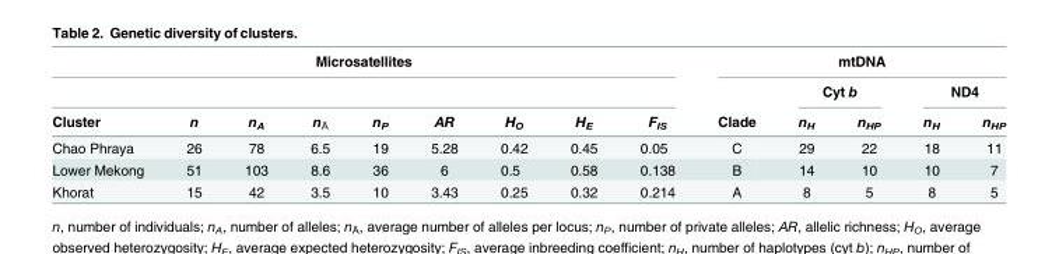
<table><thead><tr><td colspan="9">Microsatellites</td><td colspan="5">mtDNA</td></tr><tr><td rowspan="2">Cluster</td><td rowspan="2">n</td><td rowspan="2">n<sub>A</sub></td><td rowspan="2">n<sub>Ā</sub></td><td rowspan="2">n<sub>P</sub></td><td rowspan="2">AR</td><td rowspan="2">H<sub>O</sub></td><td rowspan="2">H<sub>E</sub></td><td rowspan="2">F<sub>IS</sub></td><td rowspan="2">Clade</td><td colspan="2">Cyt b</td><td colspan="2">ND4</td></tr><tr><td>n<sub>H</sub></td><td>n<sub>HP</sub></td><td>n<sub>H</sub></td><td>n<sub>HP</sub></td></tr></thead><tbody><tr><td>Chao Phraya</td><td>26</td><td>78</td><td>6.5</td><td>19</td><td>5.28</td><td>0.42</td><td>0.45</td><td>0.05</td><td>C</td><td>29</td><td>22</td><td>18</td><td>11</td></tr><tr><td>Lower Mekong</td><td>51</td><td>103</td><td>8.6</td><td>36</td><td>6</td><td>0.5</td><td>0.58</td><td>0.138</td><td>B</td><td>14</td><td>10</td><td>10</td><td>7</td></tr><tr><td>Khorat</td><td>15</td><td>42</td><td>3.5</td><td>10</td><td>3.43</td><td>0.25</td><td>0.32</td><td>0.214</td><td>A</td><td>8</td><td>5</td><td>8</td><td>5</td></tr></tbody></table>